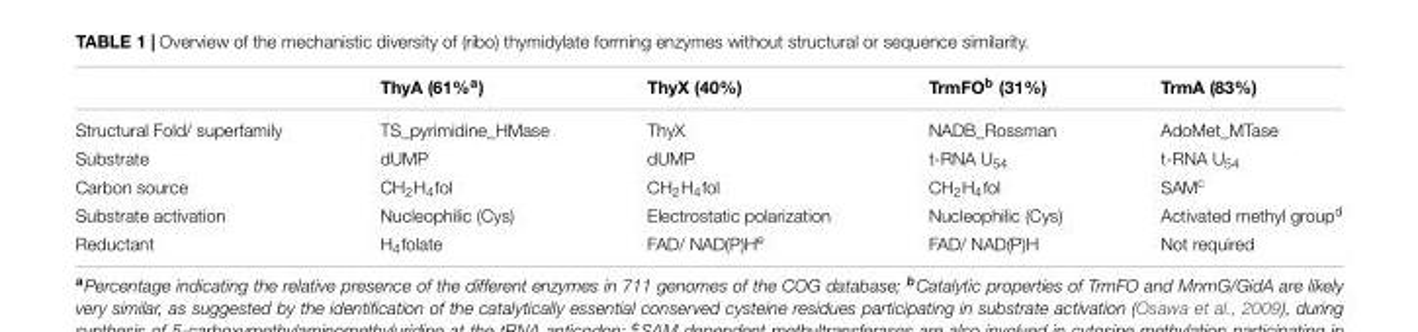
<table><thead><tr><td></td><td>ThyA (61%<sup>a</sup>)</td><td>ThyX (40%)</td><td>TrmFO<sup>b</sup> (31%)</td><td>TrmA (83%)</td></tr></thead><tbody><tr><td>Structural Fold/ superfamily</td><td>TS_pyrimidine_HMase</td><td>ThyX</td><td>NADB_Rossman</td><td>AdoMet_MTase</td></tr><tr><td>Substrate</td><td>dUMP</td><td>dUMP</td><td>t-RNA U<sub>54</sub></td><td>t-RNA U<sub>54</sub></td></tr><tr><td>Carbon source</td><td>CH<sub>2</sub>H<sub>4</sub>fol</td><td>CH<sub>2</sub>H<sub>4</sub>fol</td><td>CH<sub>2</sub>H<sub>4</sub>fol</td><td>SAM<sup>c</sup></td></tr><tr><td>Substrate activation</td><td>Nucleophilic (Cys)</td><td>Electrostatic polarization</td><td>Nucleophilic (Cys)</td><td>Activated methyl group<sup>d</sup></td></tr><tr><td>Reductant</td><td>H<sub>4</sub>folate</td><td>FAD/ NAD(P)H<sup>e</sup></td><td>FAD/ NAD(P)H</td><td>Not required</td></tr></tbody></table>